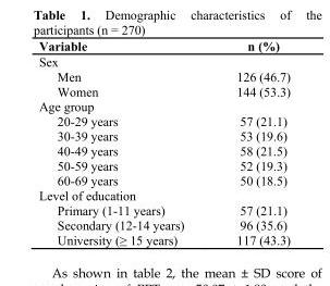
<table><thead><tr><td>Variable</td><td>n (%)</td></tr></thead><tbody><tr><td colspan="2">Sex</td></tr><tr><td>Men</td><td>126 (46.7)</td></tr><tr><td>Women</td><td>144 (53.3)</td></tr><tr><td colspan="2">Age group</td></tr><tr><td>20-29 years</td><td>57 (21.1)</td></tr><tr><td>30-39 years</td><td>53 (19.6)</td></tr><tr><td>40-49 years</td><td>58 (21.5)</td></tr><tr><td>50-59 years</td><td>52 (19.3)</td></tr><tr><td>60-69 years</td><td>50 (18.5)</td></tr><tr><td colspan="2">Level of education</td></tr><tr><td>Primary (1-11 years)</td><td>57 (21.1)</td></tr><tr><td>Secondary (12-14 years)</td><td>96 (35.6)</td></tr><tr><td>University (≥ 15 years)</td><td>117 (43.3)</td></tr></tbody></table>